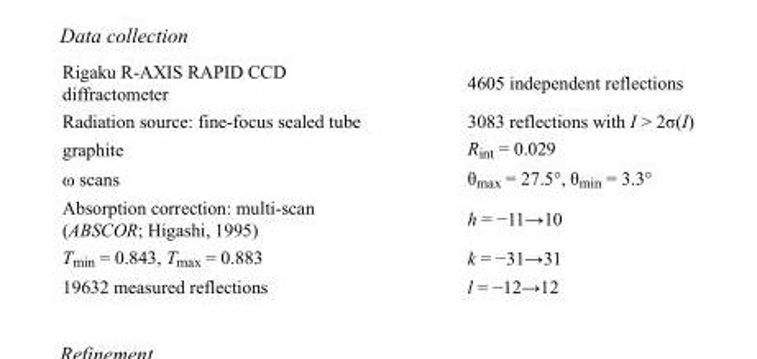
<table><tbody><tr><td>Rigaku R-AXIS RAPID CCD diffractometer</td><td>4605 independent reflections</td></tr><tr><td>Radiation source: fine-focus sealed tube</td><td>3083 reflections with I &gt; 2σ(I)</td></tr><tr><td>graphite</td><td>R<sub>int</sub> = 0.029</td></tr><tr><td>ω scans</td><td>θ<sub>max</sub> = 27.5°, θ<sub>min</sub> = 3.3°</td></tr><tr><td>Absorption correction: multi-scan (ABSCOR; Higashi, 1995)</td><td>h = −11→10</td></tr><tr><td>T<sub>min</sub> = 0.843, T<sub>max</sub> = 0.883</td><td>k = −31→31</td></tr><tr><td>19632 measured reflections</td><td>l = −12→12</td></tr></tbody></table>